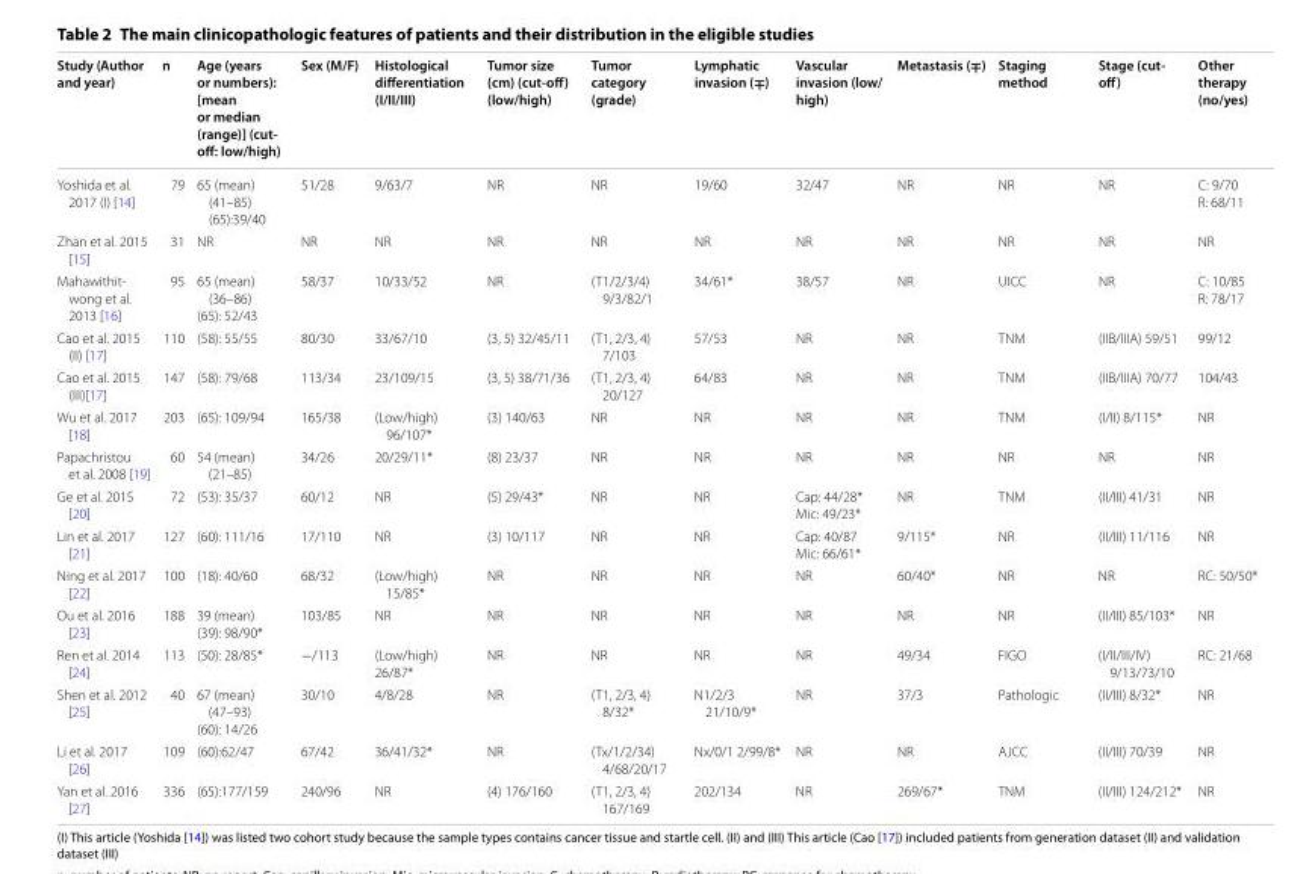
<table><thead><tr><td>Study (Author and year)</td><td>n</td><td>Age (years or numbers): [mean or median (range)] (cut‑ off: low/high)</td><td>Sex (M/F)</td><td>Histological differentiation (I/II/III)</td><td>Tumor size (cm) (cut‑off) (low/high)</td><td>Tumor category (grade)</td><td>Lymphatic invasion (∓)</td><td>Vascular invasion (low/ high)</td><td>Metastasis (∓)</td><td>Staging method</td><td>Stage (cut‑ off)</td><td>Other therapy (no/yes)</td></tr></thead><tbody><tr><td>Yoshida et al. 2017 (I) [14]</td><td>79</td><td>65 (mean) (41–85) (65):39/40</td><td>51/28</td><td>9/63/7</td><td>NR</td><td>NR</td><td>19/60</td><td>32/47</td><td>NR</td><td>NR</td><td>NR</td><td>C: 9/70 R: 68/11</td></tr><tr><td>Zhan et al. 2015 [15]</td><td>31</td><td>NR</td><td>NR</td><td>NR</td><td>NR</td><td>NR</td><td>NR</td><td>NR</td><td>NR</td><td>NR</td><td>NR</td><td>NR</td></tr><tr><td>Mahawithit- wong et al. 2013 [16]</td><td>95</td><td>65 (mean) (36–86) (65): 52/43</td><td>58/37</td><td>10/33/52</td><td>NR</td><td>(T1/2/3/4) 9/3/82/1</td><td>34/61*</td><td>38/57</td><td>NR</td><td>UICC</td><td>NR</td><td>C: 10/85 R: 78/17</td></tr><tr><td>Cao et al. 2015 (II) [17]</td><td>110</td><td>(58): 55/55</td><td>80/30</td><td>33/67/10</td><td>(3, 5) 32/45/11</td><td>(T1, 2/3, 4) 7/103</td><td>57/53</td><td>NR</td><td>NR</td><td>TNM</td><td>(IIB/IIIA) 59/51</td><td>99/12</td></tr><tr><td>Cao et al. 2015 (III)[17]</td><td>147</td><td>(58): 79/68</td><td>113/34</td><td>23/109/15</td><td>(3, 5) 38/71/36</td><td>(T1, 2/3, 4) 20/127</td><td>64/83</td><td>NR</td><td>NR</td><td>TNM</td><td>(IIB/IIIA) 70/77</td><td>104/43</td></tr><tr><td>Wu et al. 2017 [18]</td><td>203</td><td>(65): 109/94</td><td>165/38</td><td>(Low/high) 96/107*</td><td>(3) 140/63</td><td>NR</td><td>NR</td><td>NR</td><td>NR</td><td>TNM</td><td>(I/II) 8/115*</td><td>NR</td></tr><tr><td>Papachristou et al. 2008 [19]</td><td>60</td><td>54 (mean) (21–85)</td><td>34/26</td><td>20/29/11*</td><td>(8) 23/37</td><td>NR</td><td>NR</td><td>NR</td><td>NR</td><td>NR</td><td>NR</td><td>NR</td></tr><tr><td>Ge et al. 2015 [20]</td><td>72</td><td>(53): 35/37</td><td>60/12</td><td>NR</td><td>(5) 29/43*</td><td>NR</td><td>NR</td><td>Cap: 44/28* Mic: 49/23*</td><td>NR</td><td>TNM</td><td>(II/III) 41/31</td><td>NR</td></tr><tr><td>Lin et al. 2017 [21]</td><td>127</td><td>(60): 111/16</td><td>17/110</td><td>NR</td><td>(3) 10/117</td><td>NR</td><td>NR</td><td>Cap: 40/87 Mic: 66/61*</td><td>9/115*</td><td>NR</td><td>(II/III) 11/116</td><td>NR</td></tr><tr><td>Ning et al. 2017 [22]</td><td>100</td><td>(18): 40/60</td><td>68/32</td><td>(Low/high) 15/85*</td><td>NR</td><td>NR</td><td>NR</td><td>NR</td><td>60/40*</td><td>NR</td><td>NR</td><td>RC: 50/50*</td></tr><tr><td>Ou et al. 2016 [23]</td><td>188</td><td>39 (mean) (39): 98/90*</td><td>103/85</td><td>NR</td><td>NR</td><td>NR</td><td>NR</td><td>NR</td><td>NR</td><td>NR</td><td>(II/III) 85/103*</td><td>NR</td></tr><tr><td>Ren et al. 2014 [24]</td><td>113</td><td>(50): 28/85*</td><td>−/113</td><td>(Low/high) 26/87*</td><td>NR</td><td>NR</td><td>NR</td><td>NR</td><td>49/34</td><td>FIGO</td><td>(I/II/III/IV) 9/13/73/10</td><td>RC: 21/68</td></tr><tr><td>Shen et al. 2012 [25]</td><td>40</td><td>67 (mean) (47–93) (60): 14/26</td><td>30/10</td><td>4/8/28</td><td>NR</td><td>(T1, 2/3, 4) 8/32*</td><td>N1/2/3 21/10/9*</td><td>NR</td><td>37/3</td><td>Pathologic</td><td>(II/III) 8/32*</td><td>NR</td></tr><tr><td>Li et al. 2017 [26]</td><td>109</td><td>(60):62/47</td><td>67/42</td><td>36/41/32*</td><td>NR</td><td>(Tx/1/2/34) 4/68/20/17</td><td>Nx/0/1 2/99/8*</td><td>NR</td><td>NR</td><td>AJCC</td><td>(II/III) 70/39</td><td>NR</td></tr><tr><td>Yan et al. 2016 [27]</td><td>336</td><td>(65):177/159</td><td>240/96</td><td>NR</td><td>(4) 176/160</td><td>(T1, 2/3, 4) 167/169</td><td>202/134</td><td>NR</td><td>269/67*</td><td>TNM</td><td>(II/III) 124/212*</td><td>NR</td></tr></tbody></table>